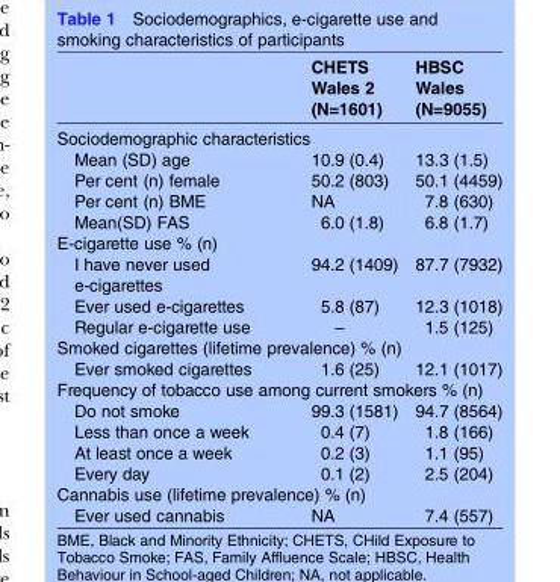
<table><thead><tr><td></td><td>CHETS Wales 2 (N=1601)</td><td>HBSC Wales (N=9055)</td></tr></thead><tbody><tr><td colspan="3">Sociodemographic characteristics</td></tr><tr><td>Mean (SD) age</td><td>10.9 (0.4)</td><td>13.3 (1.5)</td></tr><tr><td>Per cent (n) female</td><td>50.2 (803)</td><td>50.1 (4459)</td></tr><tr><td>Per cent (n) BME</td><td>NA</td><td>7.8 (630)</td></tr><tr><td>Mean(SD) FAS</td><td>6.0 (1.8)</td><td>6.8 (1.7)</td></tr><tr><td colspan="3">E-cigarette use % (n)</td></tr><tr><td>I have never used e-cigarettes</td><td>94.2 (1409)</td><td>87.7 (7932)</td></tr><tr><td>Ever used e-cigarettes</td><td>5.8 (87)</td><td>12.3 (1018)</td></tr><tr><td>Regular e-cigarette use</td><td>–</td><td>1.5 (125)</td></tr><tr><td colspan="3">Smoked cigarettes (lifetime prevalence) % (n)</td></tr><tr><td>Ever smoked cigarettes</td><td>1.6 (25)</td><td>12.1 (1017)</td></tr><tr><td colspan="3">Frequency of tobacco use among current smokers % (n)</td></tr><tr><td>Do not smoke</td><td>99.3 (1581)</td><td>94.7 (8564)</td></tr><tr><td>Less than once a week</td><td>0.4 (7)</td><td>1.8 (166)</td></tr><tr><td>At least once a week</td><td>0.2 (3)</td><td>1.1 (95)</td></tr><tr><td>Every day</td><td>0.1 (2)</td><td>2.5 (204)</td></tr><tr><td colspan="3">Cannabis use (lifetime prevalence) % (n)</td></tr><tr><td>Ever used cannabis</td><td>NA</td><td>7.4 (557)</td></tr></tbody></table>